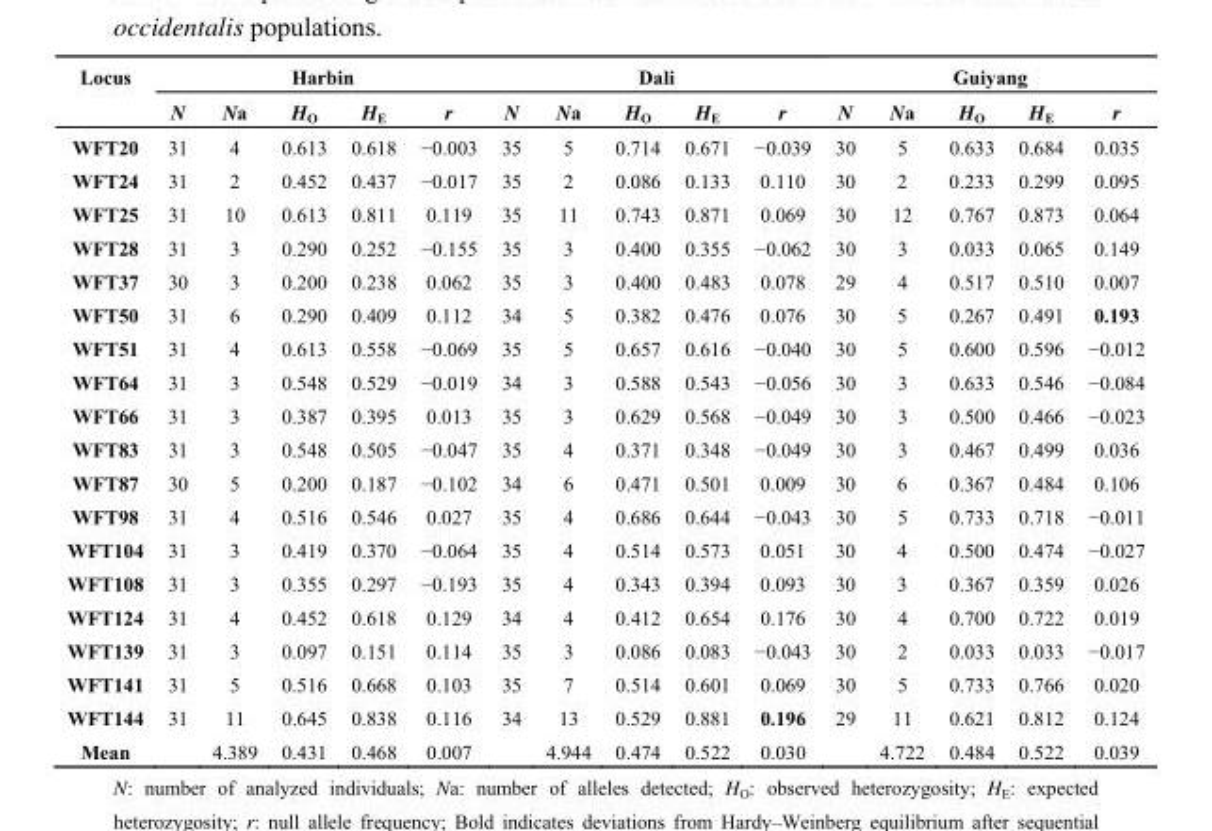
<table><thead><tr><td rowspan="2">Locus</td><td colspan="5">Harbin</td><td colspan="5">Dali</td><td colspan="5">Guiyang</td></tr><tr><td>N</td><td>Na</td><td>H<sub>O</sub></td><td>H<sub>E</sub></td><td>r</td><td>N</td><td>Na</td><td>H<sub>O</sub></td><td>H<sub>E</sub></td><td>r</td><td>N</td><td>Na</td><td>H<sub>O</sub></td><td>H<sub>E</sub></td><td>r</td></tr></thead><tbody><tr><td>WFT20</td><td>31</td><td>4</td><td>0.613</td><td>0.618</td><td>−0.003</td><td>35</td><td>5</td><td>0.714</td><td>0.671</td><td>−0.039</td><td>30</td><td>5</td><td>0.633</td><td>0.684</td><td>0.035</td></tr><tr><td>WFT24</td><td>31</td><td>2</td><td>0.452</td><td>0.437</td><td>−0.017</td><td>35</td><td>2</td><td>0.086</td><td>0.133</td><td>0.110</td><td>30</td><td>2</td><td>0.233</td><td>0.299</td><td>0.095</td></tr><tr><td>WFT25</td><td>31</td><td>10</td><td>0.613</td><td>0.811</td><td>0.119</td><td>35</td><td>11</td><td>0.743</td><td>0.871</td><td>0.069</td><td>30</td><td>12</td><td>0.767</td><td>0.873</td><td>0.064</td></tr><tr><td>WFT28</td><td>31</td><td>3</td><td>0.290</td><td>0.252</td><td>−0.155</td><td>35</td><td>3</td><td>0.400</td><td>0.355</td><td>−0.062</td><td>30</td><td>3</td><td>0.033</td><td>0.065</td><td>0.149</td></tr><tr><td>WFT37</td><td>30</td><td>3</td><td>0.200</td><td>0.238</td><td>0.062</td><td>35</td><td>3</td><td>0.400</td><td>0.483</td><td>0.078</td><td>29</td><td>4</td><td>0.517</td><td>0.510</td><td>0.007</td></tr><tr><td>WFT50</td><td>31</td><td>6</td><td>0.290</td><td>0.409</td><td>0.112</td><td>34</td><td>5</td><td>0.382</td><td>0.476</td><td>0.076</td><td>30</td><td>5</td><td>0.267</td><td>0.491</td><td>0.193</td></tr><tr><td>WFT51</td><td>31</td><td>4</td><td>0.613</td><td>0.558</td><td>−0.069</td><td>35</td><td>5</td><td>0.657</td><td>0.616</td><td>−0.040</td><td>30</td><td>5</td><td>0.600</td><td>0.596</td><td>−0.012</td></tr><tr><td>WFT64</td><td>31</td><td>3</td><td>0.548</td><td>0.529</td><td>−0.019</td><td>34</td><td>3</td><td>0.588</td><td>0.543</td><td>−0.056</td><td>30</td><td>3</td><td>0.633</td><td>0.546</td><td>−0.084</td></tr><tr><td>WFT66</td><td>31</td><td>3</td><td>0.387</td><td>0.395</td><td>0.013</td><td>35</td><td>3</td><td>0.629</td><td>0.568</td><td>−0.049</td><td>30</td><td>3</td><td>0.500</td><td>0.466</td><td>−0.023</td></tr><tr><td>WFT83</td><td>31</td><td>3</td><td>0.548</td><td>0.505</td><td>−0.047</td><td>35</td><td>4</td><td>0.371</td><td>0.348</td><td>−0.049</td><td>30</td><td>3</td><td>0.467</td><td>0.499</td><td>0.036</td></tr><tr><td>WFT87</td><td>30</td><td>5</td><td>0.200</td><td>0.187</td><td>−0.102</td><td>34</td><td>6</td><td>0.471</td><td>0.501</td><td>0.009</td><td>30</td><td>6</td><td>0.367</td><td>0.484</td><td>0.106</td></tr><tr><td>WFT98</td><td>31</td><td>4</td><td>0.516</td><td>0.546</td><td>0.027</td><td>35</td><td>4</td><td>0.686</td><td>0.644</td><td>−0.043</td><td>30</td><td>5</td><td>0.733</td><td>0.718</td><td>−0.011</td></tr><tr><td>WFT104</td><td>31</td><td>3</td><td>0.419</td><td>0.370</td><td>−0.064</td><td>35</td><td>4</td><td>0.514</td><td>0.573</td><td>0.051</td><td>30</td><td>4</td><td>0.500</td><td>0.474</td><td>−0.027</td></tr><tr><td>WFT108</td><td>31</td><td>3</td><td>0.355</td><td>0.297</td><td>−0.193</td><td>35</td><td>4</td><td>0.343</td><td>0.394</td><td>0.093</td><td>30</td><td>3</td><td>0.367</td><td>0.359</td><td>0.026</td></tr><tr><td>WFT124</td><td>31</td><td>4</td><td>0.452</td><td>0.618</td><td>0.129</td><td>34</td><td>4</td><td>0.412</td><td>0.654</td><td>0.176</td><td>30</td><td>4</td><td>0.700</td><td>0.722</td><td>0.019</td></tr><tr><td>WFT139</td><td>31</td><td>3</td><td>0.097</td><td>0.151</td><td>0.114</td><td>35</td><td>3</td><td>0.086</td><td>0.083</td><td>−0.043</td><td>30</td><td>2</td><td>0.033</td><td>0.033</td><td>−0.017</td></tr><tr><td>WFT141</td><td>31</td><td>5</td><td>0.516</td><td>0.668</td><td>0.103</td><td>35</td><td>7</td><td>0.514</td><td>0.601</td><td>0.069</td><td>30</td><td>5</td><td>0.733</td><td>0.766</td><td>0.020</td></tr><tr><td>WFT144</td><td>31</td><td>11</td><td>0.645</td><td>0.838</td><td>0.116</td><td>34</td><td>13</td><td>0.529</td><td>0.881</td><td>0.196</td><td>29</td><td>11</td><td>0.621</td><td>0.812</td><td>0.124</td></tr><tr><td>Mean</td><td></td><td>4.389</td><td>0.431</td><td>0.468</td><td>0.007</td><td></td><td>4.944</td><td>0.474</td><td>0.522</td><td>0.030</td><td></td><td>4.722</td><td>0.484</td><td>0.522</td><td>0.039</td></tr></tbody></table>